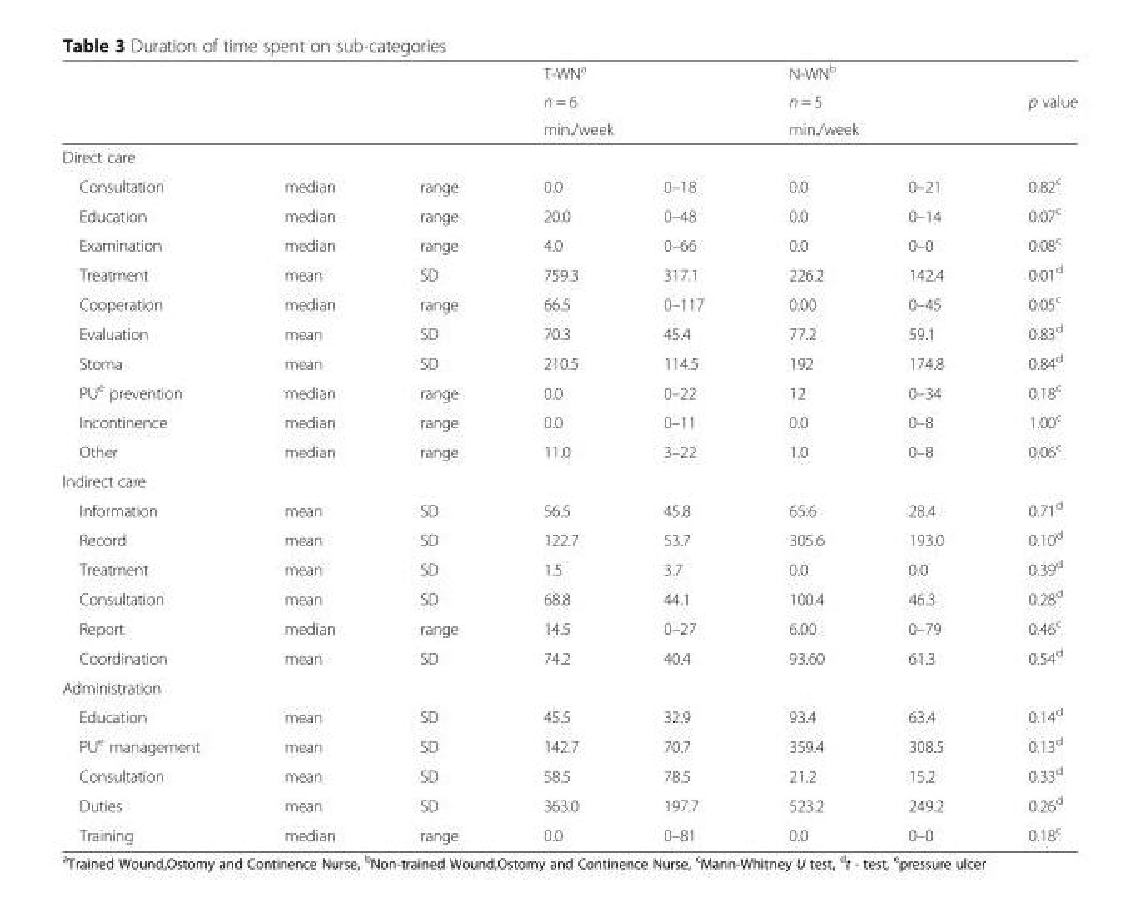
<table><thead><tr><td rowspan="3"></td><td rowspan="3"></td><td rowspan="3"></td><td rowspan="3" colspan="2">T-WN<sup>a</sup> n = 6 min./week</td><td rowspan="3" colspan="2">N-WN<sup>b</sup> n = 5 min./week</td><td rowspan="3">p value</td></tr><tr></tr><tr></tr><tr><td colspan="8">Direct care</td></tr><tr><td>Consultation</td><td>median</td><td>range</td><td>0.0</td><td>0–18</td><td>0.0</td><td>0–21</td><td>0.82<sup>c</sup></td></tr></thead><tbody><tr><td>Education</td><td>median</td><td>range</td><td>20.0</td><td>0–48</td><td>0.0</td><td>0–14</td><td>0.07<sup>c</sup></td></tr><tr><td>Examination</td><td>median</td><td>range</td><td>4.0</td><td>0–66</td><td>0.0</td><td>0–0</td><td>0.08<sup>c</sup></td></tr><tr><td>Treatment</td><td>mean</td><td>SD</td><td>759.3</td><td>317.1</td><td>226.2</td><td>142.4</td><td>0.01<sup>d</sup></td></tr><tr><td>Cooperation</td><td>median</td><td>range</td><td>66.5</td><td>0–117</td><td>0.00</td><td>0–45</td><td>0.05<sup>c</sup></td></tr><tr><td>Evaluation</td><td>mean</td><td>SD</td><td>70.3</td><td>45.4</td><td>77.2</td><td>59.1</td><td>0.83<sup>d</sup></td></tr><tr><td>Stoma</td><td>mean</td><td>SD</td><td>210.5</td><td>114.5</td><td>192</td><td>174.8</td><td>0.84<sup>d</sup></td></tr><tr><td>PU<sup>e</sup> prevention</td><td>median</td><td>range</td><td>0.0</td><td>0–22</td><td>12</td><td>0–34</td><td>0.18<sup>c</sup></td></tr><tr><td>Incontinence</td><td>median</td><td>range</td><td>0.0</td><td>0–11</td><td>0.0</td><td>0–8</td><td>1.00<sup>c</sup></td></tr><tr><td>Other</td><td>median</td><td>range</td><td>11.0</td><td>3–22</td><td>1.0</td><td>0–8</td><td>0.06<sup>c</sup></td></tr><tr><td colspan="8">Indirect care</td></tr><tr><td>Information</td><td>mean</td><td>SD</td><td>56.5</td><td>45.8</td><td>65.6</td><td>28.4</td><td>0.71<sup>d</sup></td></tr><tr><td>Record</td><td>mean</td><td>SD</td><td>122.7</td><td>53.7</td><td>305.6</td><td>193.0</td><td>0.10<sup>d</sup></td></tr><tr><td>Treatment</td><td>mean</td><td>SD</td><td>1.5</td><td>3.7</td><td>0.0</td><td>0.0</td><td>0.39<sup>d</sup></td></tr><tr><td>Consultation</td><td>mean</td><td>SD</td><td>68.8</td><td>44.1</td><td>100.4</td><td>46.3</td><td>0.28<sup>d</sup></td></tr><tr><td>Report</td><td>median</td><td>range</td><td>14.5</td><td>0–27</td><td>6.00</td><td>0–79</td><td>0.46<sup>c</sup></td></tr><tr><td>Coordination</td><td>mean</td><td>SD</td><td>74.2</td><td>40.4</td><td>93.60</td><td>61.3</td><td>0.54<sup>d</sup></td></tr><tr><td colspan="8">Administration</td></tr><tr><td>Education</td><td>mean</td><td>SD</td><td>45.5</td><td>32.9</td><td>93.4</td><td>63.4</td><td>0.14<sup>d</sup></td></tr><tr><td>PU<sup>e</sup> management</td><td>mean</td><td>SD</td><td>142.7</td><td>70.7</td><td>359.4</td><td>308.5</td><td>0.13<sup>d</sup></td></tr><tr><td>Consultation</td><td>mean</td><td>SD</td><td>58.5</td><td>78.5</td><td>21.2</td><td>15.2</td><td>0.33<sup>d</sup></td></tr><tr><td>Duties</td><td>mean</td><td>SD</td><td>363.0</td><td>197.7</td><td>523.2</td><td>249.2</td><td>0.26<sup>d</sup></td></tr><tr><td>Training</td><td>median</td><td>range</td><td>0.0</td><td>0–81</td><td>0.0</td><td>0–0</td><td>0.18<sup>c</sup></td></tr></tbody></table>